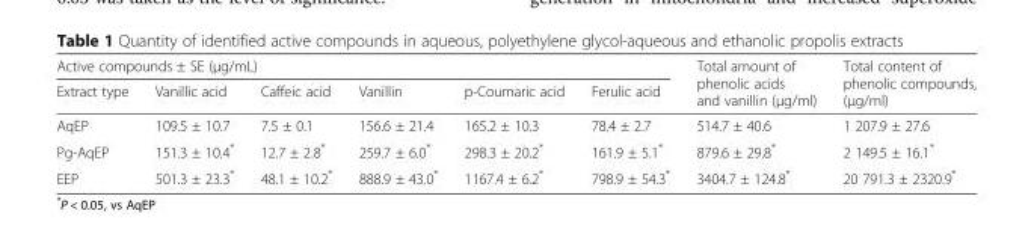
<table><thead><tr><td colspan="6">Active compounds ± SE (μg/mL)</td><td rowspan="2">Total amount of phenolic acids and vanillin (μg/ml)</td><td rowspan="2">Total content of phenolic compounds, (μg/ml)</td></tr><tr><td>Extract type</td><td>Vanillic acid</td><td>Caffeic acid</td><td>Vanillin</td><td>p-Coumaric acid</td><td>Ferulic acid</td></tr></thead><tbody><tr><td>AqEP</td><td>109.5 ± 10.7</td><td>7.5 ± 0.1</td><td>156.6 ± 21.4</td><td>165.2 ± 10.3</td><td>78.4 ± 2.7</td><td>514.7 ± 40.6</td><td>1 207.9 ± 27.6</td></tr><tr><td>Pg-AqEP</td><td>151.3 ± 10.4*</td><td>12.7 ± 2.8*</td><td>259.7 ± 6.0*</td><td>298.3 ± 20.2*</td><td>161.9 ± 5.1*</td><td>879.6 ± 29.8*</td><td>2 149.5 ± 16.1*</td></tr><tr><td>EEP</td><td>501.3 ± 23.3*</td><td>48.1 ± 10.2*</td><td>888.9 ± 43.0*</td><td>1167.4 ± 6.2*</td><td>798.9 ± 54.3*</td><td>3404.7 ± 124.8*</td><td>20 791.3 ± 2320.9*</td></tr></tbody></table>